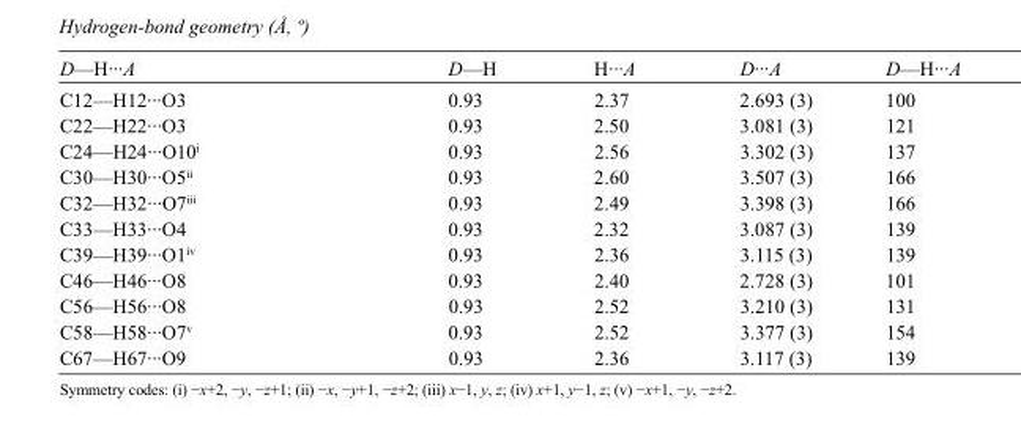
<table><tbody><tr><td>D—H···A</td><td>D—H</td><td>H···A</td><td>D···A</td><td>D—H···A</td></tr><tr><td>C12—H12···O3</td><td>0.93</td><td>2.37</td><td>2.693 (3)</td><td>100</td></tr><tr><td>C22—H22···O3</td><td>0.93</td><td>2.50</td><td>3.081 (3)</td><td>121</td></tr><tr><td>C24—H24···O10<sup>i</sup></td><td>0.93</td><td>2.56</td><td>3.302 (3)</td><td>137</td></tr><tr><td>C30—H30···O5<sup>ii</sup></td><td>0.93</td><td>2.60</td><td>3.507 (3)</td><td>166</td></tr><tr><td>C32—H32···O7<sup>iii</sup></td><td>0.93</td><td>2.49</td><td>3.398 (3)</td><td>166</td></tr><tr><td>C33—H33···O4</td><td>0.93</td><td>2.32</td><td>3.087 (3)</td><td>139</td></tr><tr><td>C39—H39···O1<sup>iv</sup></td><td>0.93</td><td>2.36</td><td>3.115 (3)</td><td>139</td></tr><tr><td>C46—H46···O8</td><td>0.93</td><td>2.40</td><td>2.728 (3)</td><td>101</td></tr><tr><td>C56—H56···O8</td><td>0.93</td><td>2.52</td><td>3.210 (3)</td><td>131</td></tr><tr><td>C58—H58···O7<sup>v</sup></td><td>0.93</td><td>2.52</td><td>3.377 (3)</td><td>154</td></tr><tr><td>C67—H67···O9</td><td>0.93</td><td>2.36</td><td>3.117 (3)</td><td>139</td></tr></tbody></table>